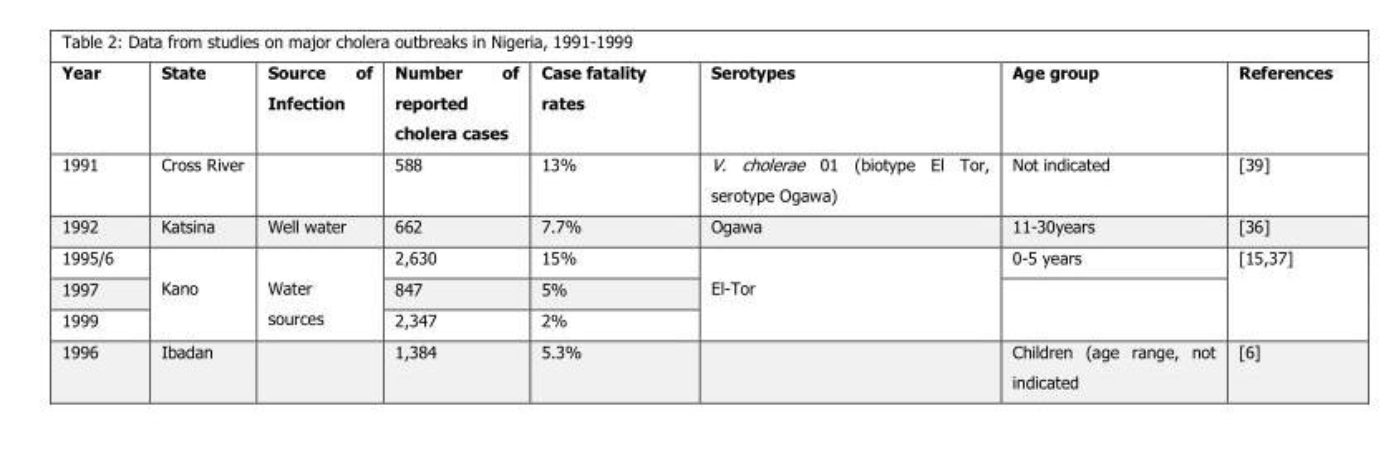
<table><thead><tr><td>Year</td><td>State</td><td>Source of Infection</td><td>Number of reported cholera cases</td><td>Case fatality rates</td><td>Serotypes</td><td>Age group</td><td>References</td></tr></thead><tbody><tr><td>1991</td><td>Cross River</td><td></td><td>588</td><td>13%</td><td>V. cholerae 01 (biotype El Tor, serotype Ogawa)</td><td>Not indicated</td><td>[39]</td></tr><tr><td>1992</td><td>Katsina</td><td>Well water</td><td>662</td><td>7.7%</td><td>Ogawa</td><td>11-30years</td><td>[36]</td></tr><tr><td>1995/6</td><td rowspan="3">Kano</td><td rowspan="3">Water sources</td><td>2,630</td><td>15%</td><td rowspan="3">El-Tor</td><td>0-5 years</td><td rowspan="3">[15,37]</td></tr><tr><td>1997</td><td>847</td><td>5%</td><td rowspan="2"></td></tr><tr><td>1999</td><td>2,347</td><td>2%</td></tr><tr><td>1996</td><td>Ibadan</td><td></td><td>1,384</td><td>5.3%</td><td></td><td>Children (age range, not indicated</td><td>[6]</td></tr></tbody></table>